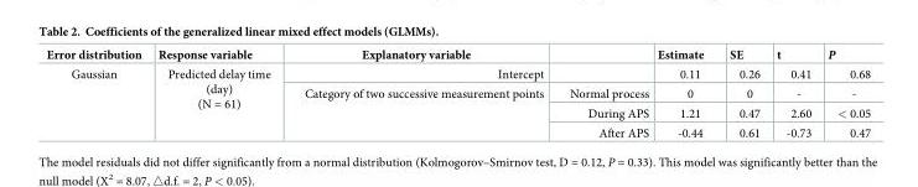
<table><thead><tr><td>Error distribution</td><td>Response variable</td><td>Explanatory variable</td><td></td><td>Estimate</td><td>SE</td><td>t</td><td>P</td></tr></thead><tbody><tr><td rowspan="4">Gaussian</td><td rowspan="4">Predicted delay time (day) (N = 61)</td><td>Intercept</td><td></td><td>0.11</td><td>0.26</td><td>0.41</td><td>0.68</td></tr><tr><td rowspan="3">Category of two successive measurement points</td><td>Normal process</td><td>0</td><td>0</td><td>-</td><td>-</td></tr><tr><td>During APS</td><td>1.21</td><td>0.47</td><td>2.60</td><td>&lt; 0.05</td></tr><tr><td>After APS</td><td>-0.44</td><td>0.61</td><td>-0.73</td><td>0.47</td></tr></tbody></table>